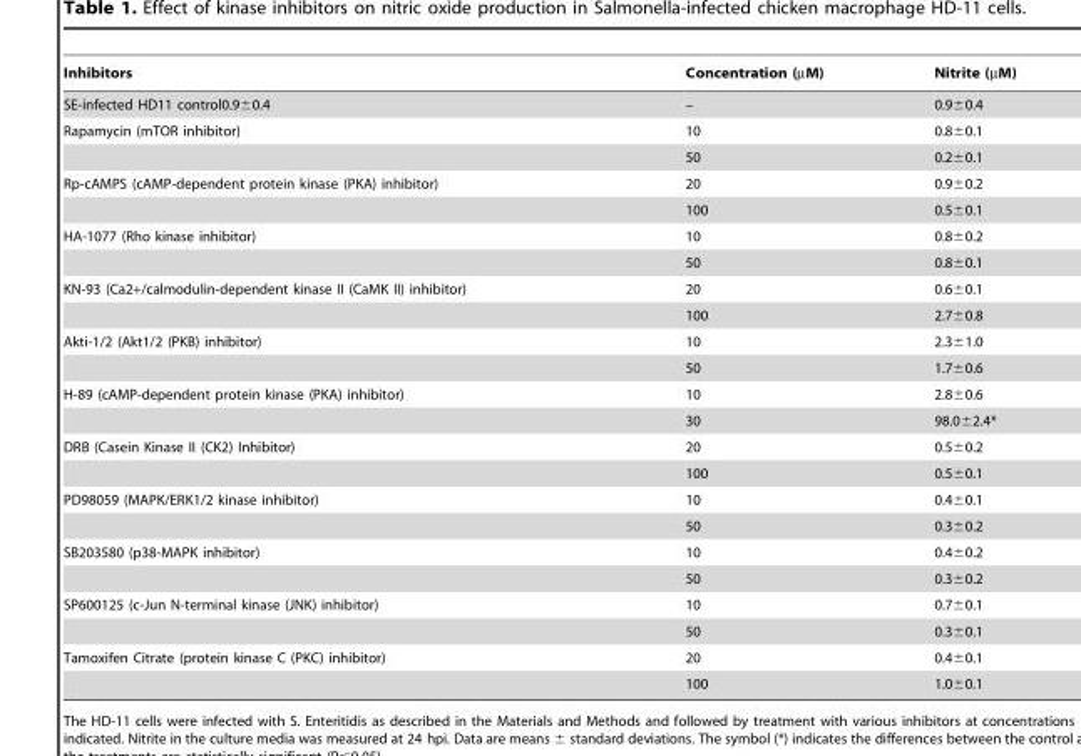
<table><thead><tr><td>Inhibitors</td><td>Concentration (µM)</td><td>Nitrite (µM)</td></tr></thead><tbody><tr><td>SE-infected HD11 control0.9±0.4</td><td>–</td><td>0.9±0.4</td></tr><tr><td rowspan="2">Rapamycin (mTOR inhibitor)</td><td>10</td><td>0.8±0.1</td></tr><tr><td>50</td><td>0.2±0.1</td></tr><tr><td rowspan="2">Rp-cAMPS (cAMP-dependent protein kinase (PKA) inhibitor)</td><td>20</td><td>0.9±0.2</td></tr><tr><td>100</td><td>0.5±0.1</td></tr><tr><td rowspan="2">HA-1077 (Rho kinase inhibitor)</td><td>10</td><td>0.8±0.2</td></tr><tr><td>50</td><td>0.8±0.1</td></tr><tr><td rowspan="2">KN-93 (Ca2+/calmodulin-dependent kinase II (CaMK II) inhibitor)</td><td>20</td><td>0.6±0.1</td></tr><tr><td>100</td><td>2.7±0.8</td></tr><tr><td rowspan="2">Akti-1/2 (Akt1/2 (PKB) inhibitor)</td><td>10</td><td>2.3±1.0</td></tr><tr><td>50</td><td>1.7±0.6</td></tr><tr><td rowspan="2">H-89 (cAMP-dependent protein kinase (PKA) inhibitor)</td><td>10</td><td>2.8±0.6</td></tr><tr><td>30</td><td>98.0±2.4*</td></tr><tr><td rowspan="2">DRB (Casein Kinase II (CK2) Inhibitor)</td><td>20</td><td>0.5±0.2</td></tr><tr><td>100</td><td>0.5±0.1</td></tr><tr><td rowspan="2">PD98059 (MAPK/ERK1/2 kinase inhibitor)</td><td>10</td><td>0.4±0.1</td></tr><tr><td>50</td><td>0.3±0.2</td></tr><tr><td rowspan="2">SB203580 (p38-MAPK inhibitor)</td><td>10</td><td>0.4±0.2</td></tr><tr><td>50</td><td>0.3±0.2</td></tr><tr><td rowspan="2">SP600125 (c-Jun N-terminal kinase (JNK) inhibitor)</td><td>10</td><td>0.7±0.1</td></tr><tr><td>50</td><td>0.3±0.1</td></tr><tr><td rowspan="2">Tamoxifen Citrate (protein kinase C (PKC) inhibitor)</td><td>20</td><td>0.4±0.1</td></tr><tr><td>100</td><td>1.0±0.1</td></tr></tbody></table>